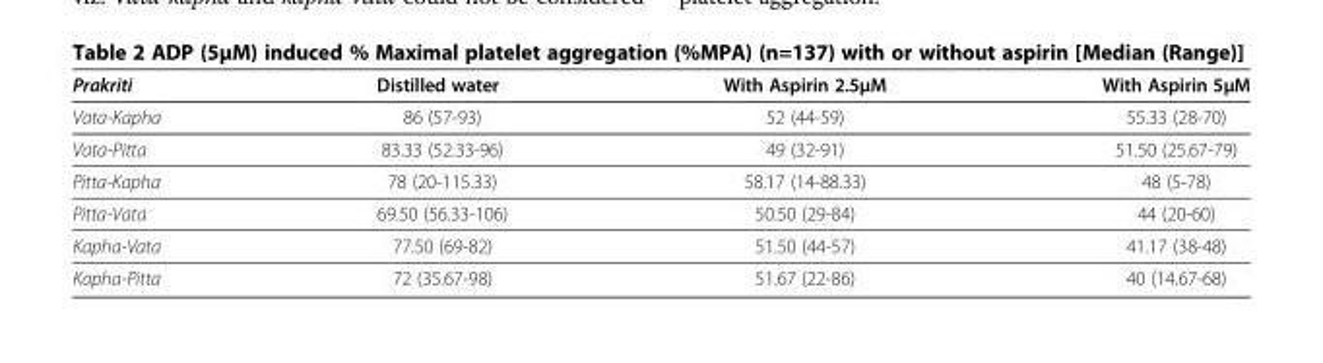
<table><thead><tr><td>Prakriti</td><td>Distilled water</td><td>With Aspirin 2.5μM</td><td>With Aspirin 5μM</td></tr></thead><tbody><tr><td>Vata-Kapha</td><td>86 (57-93)</td><td>52 (44-59)</td><td>55.33 (28-70)</td></tr><tr><td>Vata-Pitta</td><td>83.33 (52.33-96)</td><td>49 (32-91)</td><td>51.50 (25.67-79)</td></tr><tr><td>Pitta-Kapha</td><td>78 (20-115.33)</td><td>58.17 (14-88.33)</td><td>48 (5-78)</td></tr><tr><td>Pitta-Vata</td><td>69.50 (56.33-106)</td><td>50.50 (29-84)</td><td>44 (20-60)</td></tr><tr><td>Kapha-Vata</td><td>77.50 (69-82)</td><td>51.50 (44-57)</td><td>41.17 (38-48)</td></tr><tr><td>Kapha-Pitta</td><td>72 (35.67-98)</td><td>51.67 (22-86)</td><td>40 (14.67-68)</td></tr></tbody></table>